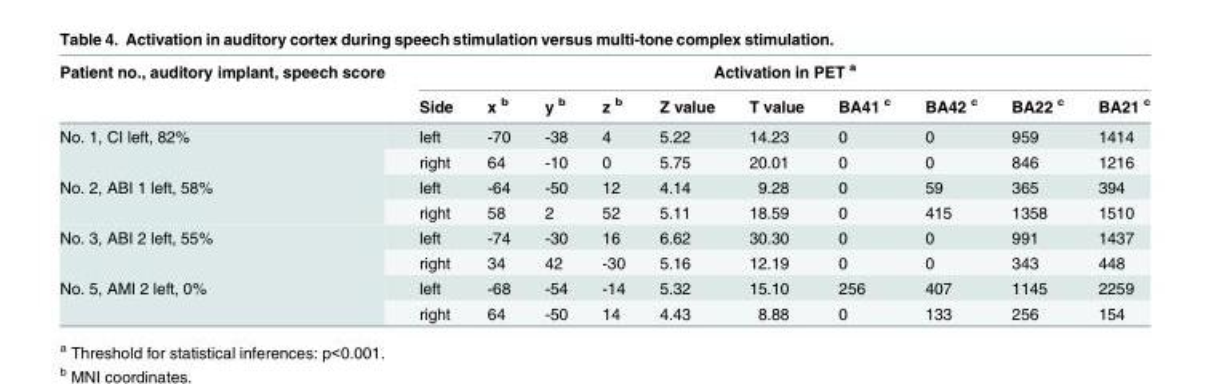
<table><thead><tr><td rowspan="2">Patient no., auditory implant, speech score</td><td colspan="10">Activation in PET <sup>a</sup></td></tr><tr><td>Side</td><td>x <sup>b</sup></td><td>y <sup>b</sup></td><td>z <sup>b</sup></td><td>Z value</td><td>T value</td><td>BA41 <sup>c</sup></td><td>BA42 <sup>c</sup></td><td>BA22 <sup>c</sup></td><td>BA21 <sup>c</sup></td></tr></thead><tbody><tr><td rowspan="2">No. 1, CI left, 82%</td><td>left</td><td>-70</td><td>-38</td><td>4</td><td>5.22</td><td>14.23</td><td>0</td><td>0</td><td>959</td><td>1414</td></tr><tr><td>right</td><td>64</td><td>-10</td><td>0</td><td>5.75</td><td>20.01</td><td>0</td><td>0</td><td>846</td><td>1216</td></tr><tr><td rowspan="2">No. 2, ABI 1 left, 58%</td><td>left</td><td>-64</td><td>-50</td><td>12</td><td>4.14</td><td>9.28</td><td>0</td><td>59</td><td>365</td><td>394</td></tr><tr><td>right</td><td>58</td><td>2</td><td>52</td><td>5.11</td><td>18.59</td><td>0</td><td>415</td><td>1358</td><td>1510</td></tr><tr><td rowspan="2">No. 3, ABI 2 left, 55%</td><td>left</td><td>-74</td><td>-30</td><td>16</td><td>6.62</td><td>30.30</td><td>0</td><td>0</td><td>991</td><td>1437</td></tr><tr><td>right</td><td>34</td><td>42</td><td>-30</td><td>5.16</td><td>12.19</td><td>0</td><td>0</td><td>343</td><td>448</td></tr><tr><td rowspan="2">No. 5, AMI 2 left, 0%</td><td>left</td><td>-68</td><td>-54</td><td>-14</td><td>5.32</td><td>15.10</td><td>256</td><td>407</td><td>1145</td><td>2259</td></tr><tr><td>right</td><td>64</td><td>-50</td><td>14</td><td>4.43</td><td>8.88</td><td>0</td><td>133</td><td>256</td><td>154</td></tr></tbody></table>